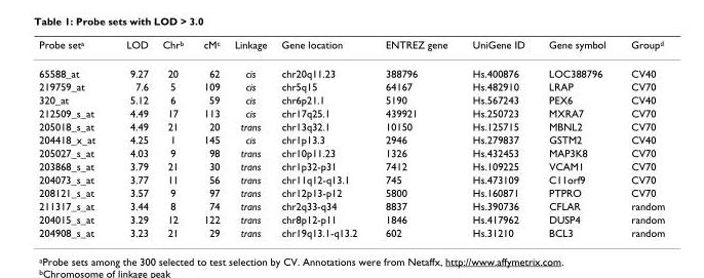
<table><thead><tr><td>Probe set<sup>a</sup></td><td>LOD</td><td>Chr<sup>b</sup></td><td>cM<sup>c</sup></td><td>Linkage</td><td>Gene location</td><td>ENTREZ gene</td><td>UniGene ID</td><td>Gene symbol</td><td>Group<sup>d</sup></td></tr></thead><tbody><tr><td>65588_at</td><td>9.27</td><td>20</td><td>62</td><td>cis</td><td>chr20q11.23</td><td>388796</td><td>Hs.400876</td><td>LOC388796</td><td>CV40</td></tr><tr><td>219759_at</td><td>7.6</td><td>5</td><td>109</td><td>cis</td><td>chr5q15</td><td>64167</td><td>Hs.482910</td><td>LRAP</td><td>CV70</td></tr><tr><td>320_at</td><td>5.12</td><td>6</td><td>59</td><td>cis</td><td>chr6p21.1</td><td>5190</td><td>Hs.567243</td><td>PEX6</td><td>CV40</td></tr><tr><td>212509_s_at</td><td>4.49</td><td>17</td><td>113</td><td>cis</td><td>chr17q25.1</td><td>439921</td><td>Hs.250723</td><td>MXRA7</td><td>CV70</td></tr><tr><td>205018_s_at</td><td>4.49</td><td>21</td><td>20</td><td>trans</td><td>chr13q32.1</td><td>10150</td><td>Hs.125715</td><td>MBNL2</td><td>CV70</td></tr><tr><td>204418_x_at</td><td>4.25</td><td>1</td><td>145</td><td>cis</td><td>chr1p13.3</td><td>2946</td><td>Hs.279837</td><td>GSTM2</td><td>CV40</td></tr><tr><td>205027_s_at</td><td>4.03</td><td>9</td><td>98</td><td>trans</td><td>chr10p11.23</td><td>1326</td><td>Hs.432453</td><td>MAP3K8</td><td>CV70</td></tr><tr><td>203868_s_at</td><td>3.79</td><td>21</td><td>30</td><td>trans</td><td>chr1p32-p31</td><td>7412</td><td>Hs.109225</td><td>VCAM1</td><td>CV70</td></tr><tr><td>204073_s_at</td><td>3.77</td><td>11</td><td>56</td><td>trans</td><td>chr11q12-q13.1</td><td>745</td><td>Hs.473109</td><td>C11orf9</td><td>CV70</td></tr><tr><td>208121_s_at</td><td>3.57</td><td>9</td><td>97</td><td>trans</td><td>chr12p13-p12</td><td>5800</td><td>Hs.160871</td><td>PTPRO</td><td>CV70</td></tr><tr><td>211317_s_at</td><td>3.44</td><td>8</td><td>74</td><td>trans</td><td>chr2q33-q34</td><td>8837</td><td>Hs.390736</td><td>CFLAR</td><td>random</td></tr><tr><td>204015_s_at</td><td>3.29</td><td>12</td><td>122</td><td>trans</td><td>chr8p12-p11</td><td>1846</td><td>Hs.417962</td><td>DUSP4</td><td>random</td></tr><tr><td>204908_s_at</td><td>3.23</td><td>21</td><td>29</td><td>trans</td><td>chr19q13.1-q13.2</td><td>602</td><td>Hs.31210</td><td>BCL3</td><td>random</td></tr></tbody></table>